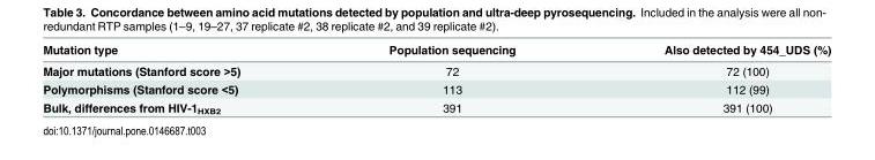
<table><thead><tr><td>Mutation type</td><td>Population sequencing</td><td>Also detected by 454_UDS (%)</td></tr></thead><tbody><tr><td>Major mutations (Stanford score &gt;5)</td><td>72</td><td>72 (100)</td></tr><tr><td>Polymorphisms (Stanford score &lt;5)</td><td>113</td><td>112 (99)</td></tr><tr><td>Bulk, differences from HIV-1<sub>HXB2</sub></td><td>391</td><td>391 (100)</td></tr></tbody></table>